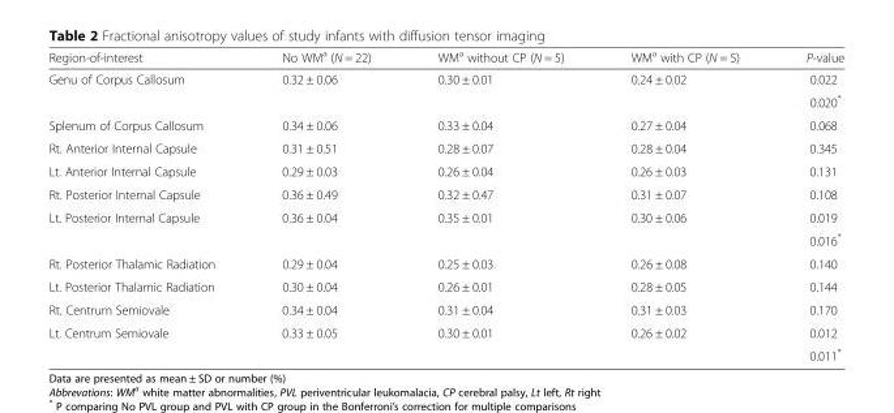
<table><thead><tr><td>Region-of-interest</td><td>No WM<sup>a</sup> (N = 22)</td><td>WM<sup>a</sup> without CP (N = 5)</td><td>WM<sup>a</sup> with CP (N = 5)</td><td>P-value</td></tr></thead><tbody><tr><td rowspan="2">Genu of Corpus Callosum</td><td>0.32 ± 0.06</td><td>0.30 ± 0.01</td><td>0.24 ± 0.02</td><td>0.022</td></tr><tr><td></td><td></td><td></td><td>0.020*</td></tr><tr><td>Splenum of Corpus Callosum</td><td>0.34 ± 0.06</td><td>0.33 ± 0.04</td><td>0.27 ± 0.04</td><td>0.068</td></tr><tr><td>Rt. Anterior Internal Capsule</td><td>0.31 ± 0.51</td><td>0.28 ± 0.07</td><td>0.28 ± 0.04</td><td>0.345</td></tr><tr><td>Lt. Anterior Internal Capsule</td><td>0.29 ± 0.03</td><td>0.26 ± 0.04</td><td>0.26 ± 0.03</td><td>0.131</td></tr><tr><td>Rt. Posterior Internal Capsule</td><td>0.36 ± 0.49</td><td>0.32 ± 0.47</td><td>0.31 ± 0.07</td><td>0.108</td></tr><tr><td rowspan="2">Lt. Posterior Internal Capsule</td><td>0.36 ± 0.04</td><td>0.35 ± 0.01</td><td>0.30 ± 0.06</td><td>0.019</td></tr><tr><td></td><td></td><td></td><td>0.016*</td></tr><tr><td>Rt. Posterior Thalamic Radiation</td><td>0.29 ± 0.04</td><td>0.25 ± 0.03</td><td>0.26 ± 0.08</td><td>0.140</td></tr><tr><td>Lt. Posterior Thalamic Radiation</td><td>0.30 ± 0.04</td><td>0.26 ± 0.01</td><td>0.28 ± 0.05</td><td>0.144</td></tr><tr><td>Rt. Centrum Semiovale</td><td>0.34 ± 0.04</td><td>0.31 ± 0.04</td><td>0.31 ± 0.03</td><td>0.170</td></tr><tr><td rowspan="2">Lt. Centrum Semiovale</td><td>0.33 ± 0.05</td><td>0.30 ± 0.01</td><td>0.26 ± 0.02</td><td>0.012</td></tr><tr><td></td><td></td><td></td><td>0.011*</td></tr></tbody></table>